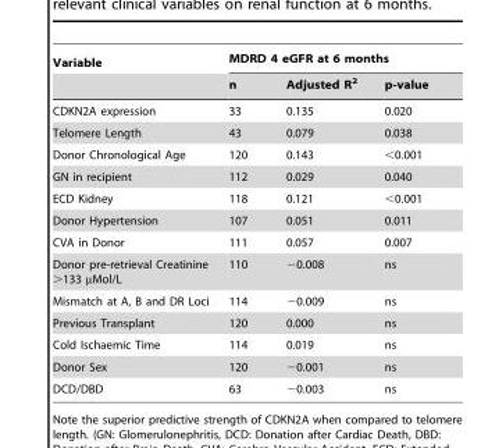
<table><thead><tr><td rowspan="2">Variable</td><td colspan="3">MDRD 4 eGFR at 6 months</td></tr><tr><td>n</td><td>Adjusted R<sup>2</sup></td><td>p-value</td></tr></thead><tbody><tr><td>CDKN2A expression</td><td>33</td><td>0.135</td><td>0.020</td></tr><tr><td>Telomere Length</td><td>43</td><td>0.079</td><td>0.038</td></tr><tr><td>Donor Chronological Age</td><td>120</td><td>0.143</td><td>&lt;0.001</td></tr><tr><td>GN in recipient</td><td>112</td><td>0.029</td><td>0.040</td></tr><tr><td>ECD Kidney</td><td>118</td><td>0.121</td><td>&lt;0.001</td></tr><tr><td>Donor Hypertension</td><td>107</td><td>0.051</td><td>0.011</td></tr><tr><td>CVA in Donor</td><td>111</td><td>0.057</td><td>0.007</td></tr><tr><td>Donor pre-retrieval Creatinine &gt;133 µMol/L</td><td>110</td><td>−0.008</td><td>ns</td></tr><tr><td>Mismatch at A, B and DR Loci</td><td>114</td><td>−0.009</td><td>ns</td></tr><tr><td>Previous Transplant</td><td>120</td><td>0.000</td><td>ns</td></tr><tr><td>Cold Ischaemic Time</td><td>114</td><td>0.019</td><td>ns</td></tr><tr><td>Donor Sex</td><td>120</td><td>−0.001</td><td>ns</td></tr><tr><td>DCD/DBD</td><td>63</td><td>−0.003</td><td>ns</td></tr></tbody></table>